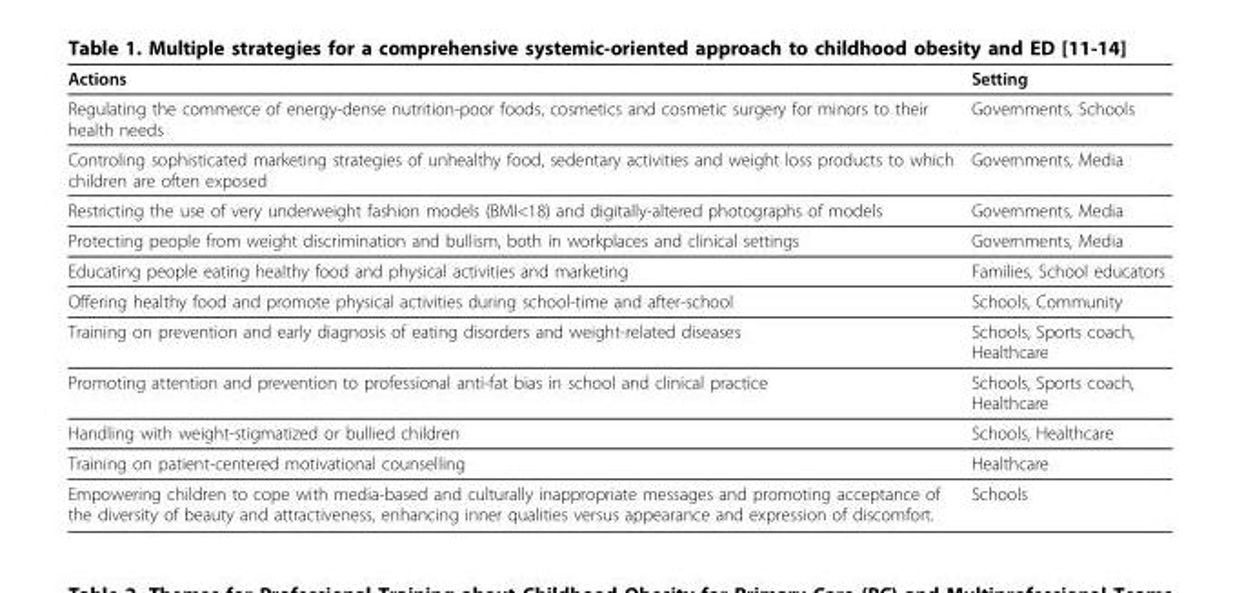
<table><thead><tr><td>Actions</td><td>Setting</td></tr></thead><tbody><tr><td>Regulating the commerce of energy-dense nutrition-poor foods, cosmetics and cosmetic surgery for minors to their health needs</td><td>Governments, Schools</td></tr><tr><td>Controling sophisticated marketing strategies of unhealthy food, sedentary activities and weight loss products to which children are often exposed</td><td>Governments, Media</td></tr><tr><td>Restricting the use of very underweight fashion models (BMI&lt;18) and digitally-altered photographs of models</td><td>Governments, Media</td></tr><tr><td>Protecting people from weight discrimination and bullism, both in workplaces and clinical settings</td><td>Governments, Media</td></tr><tr><td>Educating people eating healthy food and physical activities and marketing</td><td>Families, School educators</td></tr><tr><td>Offering healthy food and promote physical activities during school-time and after-school</td><td>Schools, Community</td></tr><tr><td>Training on prevention and early diagnosis of eating disorders and weight-related diseases</td><td>Schools, Sports coach, Healthcare</td></tr><tr><td>Promoting attention and prevention to professional anti-fat bias in school and clinical practice</td><td>Schools, Sports coach, Healthcare</td></tr><tr><td>Handling with weight-stigmatized or bullied children</td><td>Schools, Healthcare</td></tr><tr><td>Training on patient-centered motivational counselling</td><td>Healthcare</td></tr><tr><td>Empowering children to cope with media-based and culturally inappropriate messages and promoting acceptance of the diversity of beauty and attractiveness, enhancing inner qualities versus appearance and expression of discomfort.</td><td>Schools</td></tr></tbody></table>